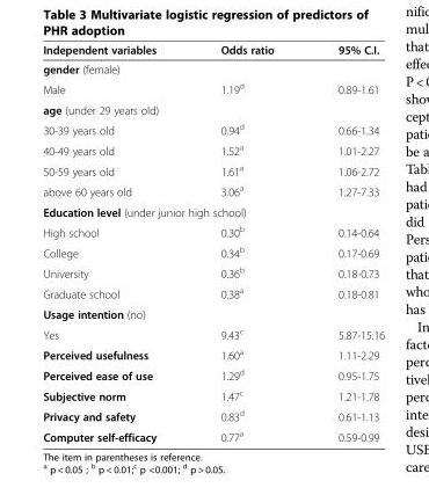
<table><thead><tr><td>Independent variables</td><td>Odds ratio</td><td>95% C.I.</td></tr></thead><tbody><tr><td colspan="3">gender (female)</td></tr><tr><td>Male</td><td>1.19<sup>d</sup></td><td>0.89-1.61</td></tr><tr><td colspan="3">age (under 29 years old)</td></tr><tr><td>30-39 years old</td><td>0.94<sup>d</sup></td><td>0.66-1.34</td></tr><tr><td>40-49 years old</td><td>1.52<sup>a</sup></td><td>1.01-2.27</td></tr><tr><td>50-59 years old</td><td>1.61<sup>a</sup></td><td>1.06-2.72</td></tr><tr><td>above 60 years old</td><td>3.06<sup>a</sup></td><td>1.27-7.33</td></tr><tr><td colspan="3">Education level (under junior high school)</td></tr><tr><td>High school</td><td>0.30<sup>b</sup></td><td>0.14-0.64</td></tr><tr><td>College</td><td>0.34<sup>b</sup></td><td>0.17-0.69</td></tr><tr><td>University</td><td>0.36<sup>b</sup></td><td>0.18-0.73</td></tr><tr><td>Graduate school</td><td>0.38<sup>a</sup></td><td>0.18-0.81</td></tr><tr><td colspan="3">Usage intention (no)</td></tr><tr><td>Yes</td><td>9.43<sup>c</sup></td><td>5.87-15.16</td></tr><tr><td>Perceived usefulness</td><td>1.60<sup>a</sup></td><td>1.11-2.29</td></tr><tr><td>Perceived ease of use</td><td>1.29<sup>d</sup></td><td>0.95-1.75</td></tr><tr><td>Subjective norm</td><td>1.47<sup>c</sup></td><td>1.21-1.78</td></tr><tr><td>Privacy and safety</td><td>0.83<sup>d</sup></td><td>0.61-1.13</td></tr><tr><td>Computer self-efficacy</td><td>0.77<sup>a</sup></td><td>0.59-0.99</td></tr></tbody></table>